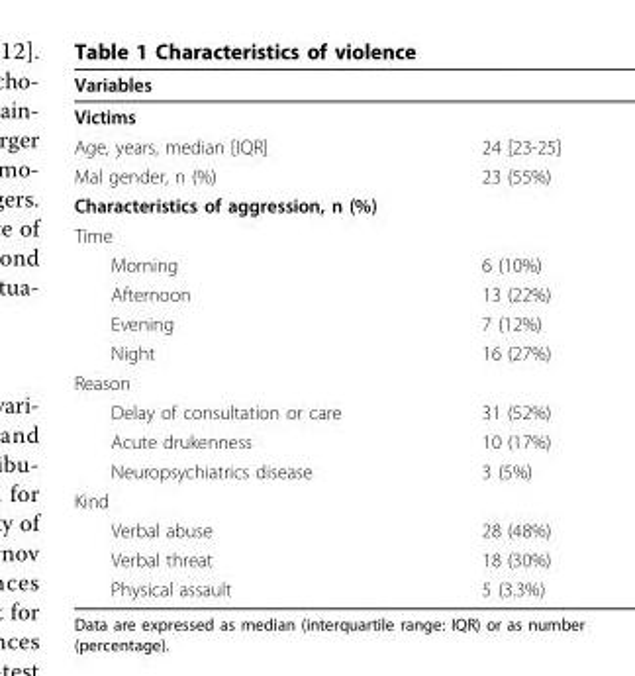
<table><thead><tr><td>Variables</td><td></td></tr></thead><tbody><tr><td colspan="2">Victims</td></tr><tr><td>Age, years, median [IQR]</td><td>24 [23-25]</td></tr><tr><td>Mal gender, n (%)</td><td>23 (55%)</td></tr><tr><td colspan="2">Characteristics of aggression, n (%)</td></tr><tr><td colspan="2">Time</td></tr><tr><td>Morning</td><td>6 (10%)</td></tr><tr><td>Afternoon</td><td>13 (22%)</td></tr><tr><td>Evening</td><td>7 (12%)</td></tr><tr><td>Night</td><td>16 (27%)</td></tr><tr><td colspan="2">Reason</td></tr><tr><td>Delay of consultation or care</td><td>31 (52%)</td></tr><tr><td>Acute drukenness</td><td>10 (17%)</td></tr><tr><td>Neuropsychiatrics disease</td><td>3 (5%)</td></tr><tr><td colspan="2">Kind</td></tr><tr><td>Verbal abuse</td><td>28 (48%)</td></tr><tr><td>Verbal threat</td><td>18 (30%)</td></tr><tr><td>Physical assault</td><td>5 (3.3%)</td></tr></tbody></table>